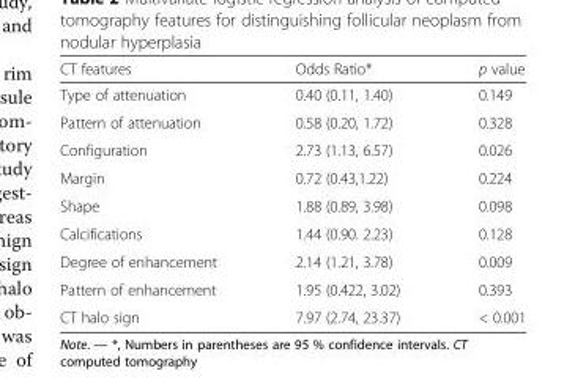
<table><thead><tr><td>CT features</td><td>Odds Ratio*</td><td>p value</td></tr></thead><tbody><tr><td>Type of attenuation</td><td>0.40 (0.11, 1.40)</td><td>0.149</td></tr><tr><td>Pattern of attenuation</td><td>0.58 (0.20, 1.72)</td><td>0.328</td></tr><tr><td>Configuration</td><td>2.73 (1.13, 6.57)</td><td>0.026</td></tr><tr><td>Margin</td><td>0.72 (0.43,1.22)</td><td>0.224</td></tr><tr><td>Shape</td><td>1.88 (0.89, 3.98)</td><td>0.098</td></tr><tr><td>Calcifications</td><td>1.44 (0.90. 2.23)</td><td>0.128</td></tr><tr><td>Degree of enhancement</td><td>2.14 (1.21, 3.78)</td><td>0.009</td></tr><tr><td>Pattern of enhancement</td><td>1.95 (0.422, 3.02)</td><td>0.393</td></tr><tr><td>CT halo sign</td><td>7.97 (2.74, 23.37)</td><td>&lt; 0.001</td></tr></tbody></table>